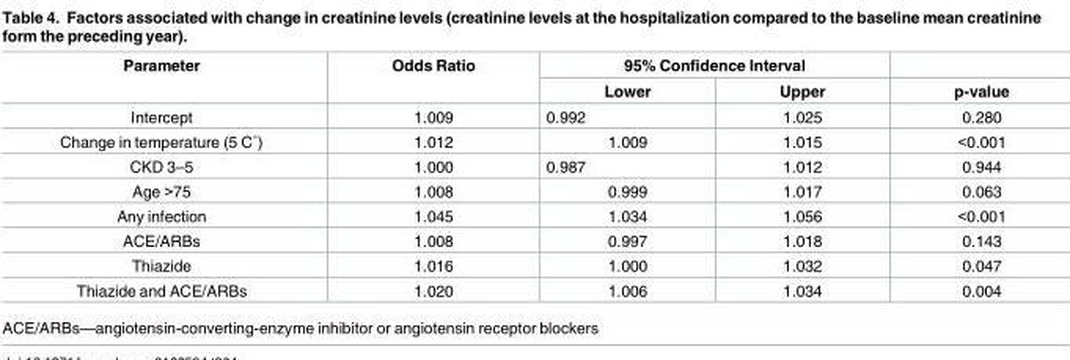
<table><thead><tr><td rowspan="2">Parameter</td><td rowspan="2">Odds Ratio</td><td colspan="2">95% Confidence Interval</td><td rowspan="2">p-value</td></tr><tr><td>Lower</td><td>Upper</td></tr></thead><tbody><tr><td>Intercept</td><td>1.009</td><td>0.992</td><td>1.025</td><td>0.280</td></tr><tr><td>Change in temperature (5 C˚)</td><td>1.012</td><td>1.009</td><td>1.015</td><td>&lt;0.001</td></tr><tr><td>CKD 3–5</td><td>1.000</td><td>0.987</td><td>1.012</td><td>0.944</td></tr><tr><td>Age &gt;75</td><td>1.008</td><td>0.999</td><td>1.017</td><td>0.063</td></tr><tr><td>Any infection</td><td>1.045</td><td>1.034</td><td>1.056</td><td>&lt;0.001</td></tr><tr><td>ACE/ARBs</td><td>1.008</td><td>0.997</td><td>1.018</td><td>0.143</td></tr><tr><td>Thiazide</td><td>1.016</td><td>1.000</td><td>1.032</td><td>0.047</td></tr><tr><td>Thiazide and ACE/ARBs</td><td>1.020</td><td>1.006</td><td>1.034</td><td>0.004</td></tr></tbody></table>